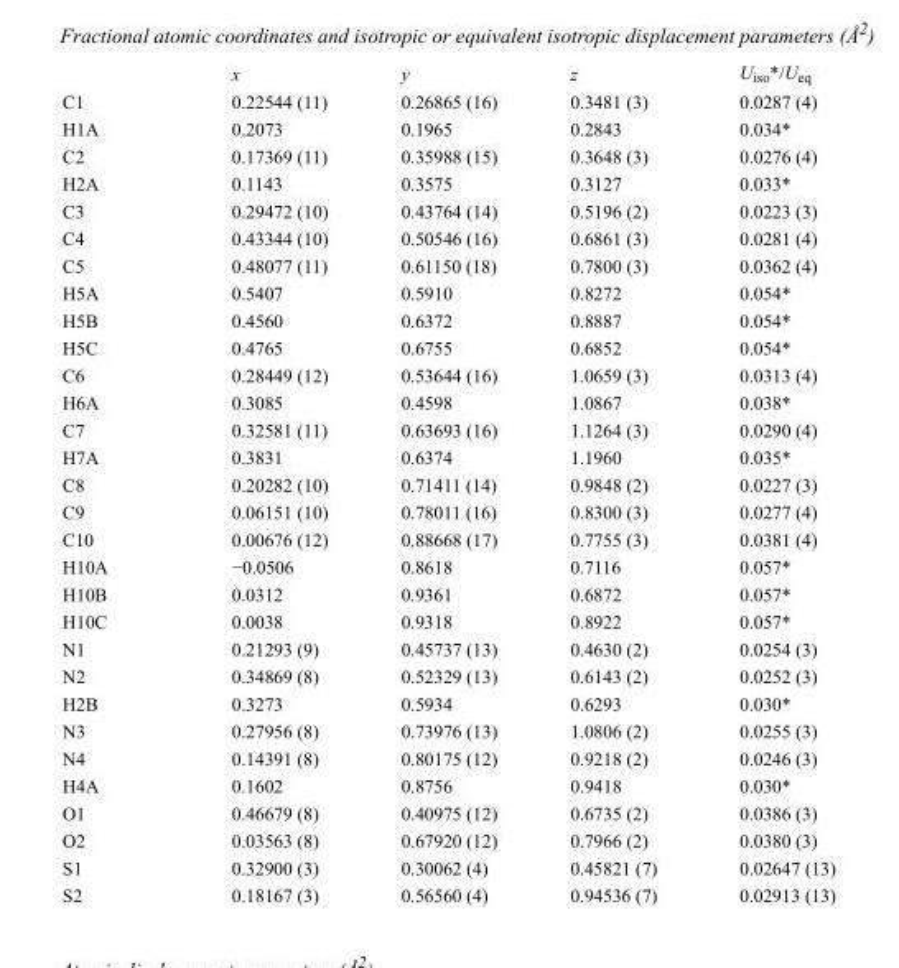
<table><thead><tr><td></td><td>x</td><td>y</td><td>z</td><td>U<sub>iso</sub>*/U<sub>eq</sub></td></tr></thead><tbody><tr><td>C1</td><td>0.22544 (11)</td><td>0.26865 (16)</td><td>0.3481 (3)</td><td>0.0287 (4)</td></tr><tr><td>H1A</td><td>0.2073</td><td>0.1965</td><td>0.2843</td><td>0.034*</td></tr><tr><td>C2</td><td>0.17369 (11)</td><td>0.35988 (15)</td><td>0.3648 (3)</td><td>0.0276 (4)</td></tr><tr><td>H2A</td><td>0.1143</td><td>0.3575</td><td>0.3127</td><td>0.033*</td></tr><tr><td>C3</td><td>0.29472 (10)</td><td>0.43764 (14)</td><td>0.5196 (2)</td><td>0.0223 (3)</td></tr><tr><td>C4</td><td>0.43344 (10)</td><td>0.50546 (16)</td><td>0.6861 (3)</td><td>0.0281 (4)</td></tr><tr><td>C5</td><td>0.48077 (11)</td><td>0.61150 (18)</td><td>0.7800 (3)</td><td>0.0362 (4)</td></tr><tr><td>H5A</td><td>0.5407</td><td>0.5910</td><td>0.8272</td><td>0.054*</td></tr><tr><td>H5B</td><td>0.4560</td><td>0.6372</td><td>0.8887</td><td>0.054*</td></tr><tr><td>H5C</td><td>0.4765</td><td>0.6755</td><td>0.6852</td><td>0.054*</td></tr><tr><td>C6</td><td>0.28449 (12)</td><td>0.53644 (16)</td><td>1.0659 (3)</td><td>0.0313 (4)</td></tr><tr><td>H6A</td><td>0.3085</td><td>0.4598</td><td>1.0867</td><td>0.038*</td></tr><tr><td>C7</td><td>0.32581 (11)</td><td>0.63693 (16)</td><td>1.1264 (3)</td><td>0.0290 (4)</td></tr><tr><td>H7A</td><td>0.3831</td><td>0.6374</td><td>1.1960</td><td>0.035*</td></tr><tr><td>C8</td><td>0.20282 (10)</td><td>0.71411 (14)</td><td>0.9848 (2)</td><td>0.0227 (3)</td></tr><tr><td>C9</td><td>0.06151 (10)</td><td>0.78011 (16)</td><td>0.8300 (3)</td><td>0.0277 (4)</td></tr><tr><td>C10</td><td>0.00676 (12)</td><td>0.88668 (17)</td><td>0.7755 (3)</td><td>0.0381 (4)</td></tr><tr><td>H10A</td><td>−0.0506</td><td>0.8618</td><td>0.7116</td><td>0.057*</td></tr><tr><td>H10B</td><td>0.0312</td><td>0.9361</td><td>0.6872</td><td>0.057*</td></tr><tr><td>H10C</td><td>0.0038</td><td>0.9318</td><td>0.8922</td><td>0.057*</td></tr><tr><td>N1</td><td>0.21293 (9)</td><td>0.45737 (13)</td><td>0.4630 (2)</td><td>0.0254 (3)</td></tr><tr><td>N2</td><td>0.34869 (8)</td><td>0.52329 (13)</td><td>0.6143 (2)</td><td>0.0252 (3)</td></tr><tr><td>H2B</td><td>0.3273</td><td>0.5934</td><td>0.6293</td><td>0.030*</td></tr><tr><td>N3</td><td>0.27956 (8)</td><td>0.73976 (13)</td><td>1.0806 (2)</td><td>0.0255 (3)</td></tr><tr><td>N4</td><td>0.14391 (8)</td><td>0.80175 (12)</td><td>0.9218 (2)</td><td>0.0246 (3)</td></tr><tr><td>H4A</td><td>0.1602</td><td>0.8756</td><td>0.9418</td><td>0.030*</td></tr><tr><td>O1</td><td>0.46679 (8)</td><td>0.40975 (12)</td><td>0.6735 (2)</td><td>0.0386 (3)</td></tr><tr><td>O2</td><td>0.03563 (8)</td><td>0.67920 (12)</td><td>0.7966 (2)</td><td>0.0380 (3)</td></tr><tr><td>S1</td><td>0.32900 (3)</td><td>0.30062 (4)</td><td>0.45821 (7)</td><td>0.02647 (13)</td></tr><tr><td>S2</td><td>0.18167 (3)</td><td>0.56560 (4)</td><td>0.94536 (7)</td><td>0.02913 (13)</td></tr></tbody></table>